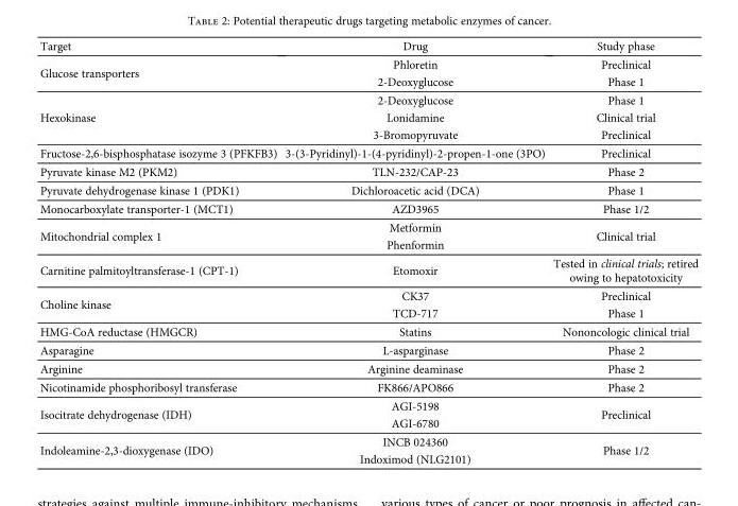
<table><thead><tr><td>Target</td><td>Drug</td><td>Study phase</td></tr></thead><tbody><tr><td rowspan="2">Glucose transporters</td><td>Phloretin</td><td>Preclinical</td></tr><tr><td>2-Deoxyglucose</td><td>Phase 1</td></tr><tr><td rowspan="3">Hexokinase</td><td>2-Deoxyglucose</td><td>Phase 1</td></tr><tr><td>Lonidamine</td><td>Clinical trial</td></tr><tr><td>3-Bromopyruvate</td><td>Preclinical</td></tr><tr><td>Fructose-2,6-bisphosphatase isozyme 3 (PFKFB3)</td><td>3-(3-Pyridinyl)-1-(4-pyridinyl)-2-propen-1-one (3PO)</td><td>Preclinical</td></tr><tr><td>Pyruvate kinase M2 (PKM2)</td><td>TLN-232/CAP-23</td><td>Phase 2</td></tr><tr><td>Pyruvate dehydrogenase kinase 1 (PDK1)</td><td>Dichloroacetic acid (DCA)</td><td>Phase 1</td></tr><tr><td>Monocarboxylate transporter-1 (MCT1)</td><td>AZD3965</td><td>Phase 1/2</td></tr><tr><td rowspan="2">Mitochondrial complex 1</td><td>Metformin</td><td rowspan="2">Clinical trial</td></tr><tr><td>Phenformin</td></tr><tr><td>Carnitine palmitoyltransferase-1 (CPT-1)</td><td>Etomoxir</td><td>Tested in clinical trials; retired owing to hepatotoxicity</td></tr><tr><td rowspan="2">Choline kinase</td><td>CK37</td><td>Preclinical</td></tr><tr><td>TCD-717</td><td>Phase 1</td></tr><tr><td>HMG-CoA reductase (HMGCR)</td><td>Statins</td><td>Nononcologic clinical trial</td></tr><tr><td>Asparagine</td><td>L-asparginase</td><td>Phase 2</td></tr><tr><td>Arginine</td><td>Arginine deaminase</td><td>Phase 2</td></tr><tr><td>Nicotinamide phosphoribosyl transferase</td><td>FK866/APO866</td><td>Phase 2</td></tr><tr><td rowspan="2">Isocitrate dehydrogenase (IDH)</td><td>AGI-5198</td><td rowspan="2">Preclinical</td></tr><tr><td>AGI-6780</td></tr><tr><td rowspan="2">Indoleamine-2,3-dioxygenase (IDO)</td><td>INCB 024360</td><td rowspan="2">Phase 1/2</td></tr><tr><td>Indoximod (NLG2101)</td></tr></tbody></table>